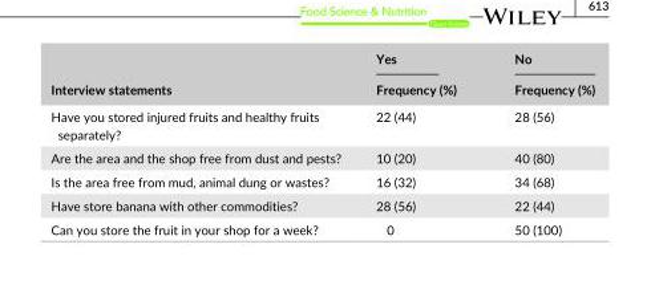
<table><thead><tr><td rowspan="2">Interview statements</td><td rowspan="2">Yes Frequency (%)</td><td rowspan="2">No Frequency (%)</td></tr><tr></tr></thead><tbody><tr><td>Have you stored injured fruits and healthy fruits separately?</td><td>22 (44)</td><td>28 (56)</td></tr><tr><td>Are the area and the shop free from dust and pests?</td><td>10 (20)</td><td>40 (80)</td></tr><tr><td>Is the area free from mud, animal dung or wastes?</td><td>16 (32)</td><td>34 (68)</td></tr><tr><td>Have store banana with other commodities?</td><td>28 (56)</td><td>22 (44)</td></tr><tr><td>Can you store the fruit in your shop for a week?</td><td>0</td><td>50 (100)</td></tr></tbody></table>